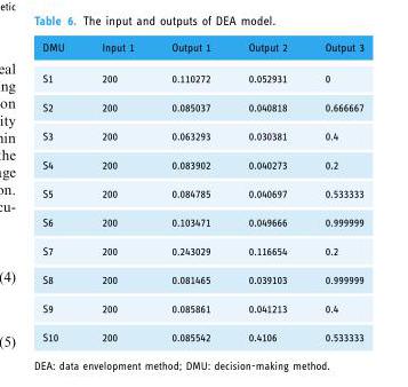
<table><thead><tr><td>DMU</td><td>Input 1</td><td>Output 1</td><td>Output 2</td><td>Output 3</td></tr></thead><tbody><tr><td>S1</td><td>200</td><td>0.110272</td><td>0.052931</td><td>0</td></tr><tr><td>S2</td><td>200</td><td>0.085037</td><td>0.040818</td><td>0.666667</td></tr><tr><td>S3</td><td>200</td><td>0.063293</td><td>0.030381</td><td>0.4</td></tr><tr><td>S4</td><td>200</td><td>0.083902</td><td>0.040273</td><td>0.2</td></tr><tr><td>S5</td><td>200</td><td>0.084785</td><td>0.040697</td><td>0.533333</td></tr><tr><td>S6</td><td>200</td><td>0.103471</td><td>0.049666</td><td>0.999999</td></tr><tr><td>S7</td><td>200</td><td>0.243029</td><td>0.116654</td><td>0.2</td></tr><tr><td>S8</td><td>200</td><td>0.081465</td><td>0.039103</td><td>0.999999</td></tr><tr><td>S9</td><td>200</td><td>0.085861</td><td>0.041213</td><td>0.4</td></tr><tr><td>S10</td><td>200</td><td>0.085542</td><td>0.4106</td><td>0.533333</td></tr></tbody></table>